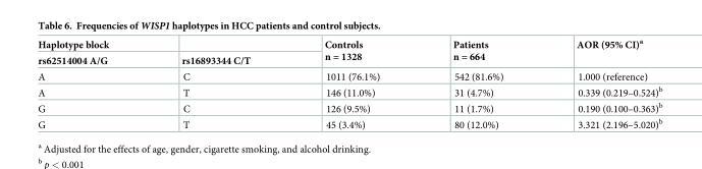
<table><thead><tr><td rowspan="2">Haplotype block rs62514004 A/G</td><td rowspan="2">rs16893344 C/T</td><td rowspan="2">Controls n = 1328</td><td rowspan="2">Patients n = 664</td><td rowspan="2">AOR (95% CI)<sup>a</sup></td></tr><tr></tr></thead><tbody><tr><td>A</td><td>C</td><td>1011 (76.1%)</td><td>542 (81.6%)</td><td>1.000 (reference)</td></tr><tr><td>A</td><td>T</td><td>146 (11.0%)</td><td>31 (4.7%)</td><td>0.339 (0.219–0.524)<sup>b</sup></td></tr><tr><td>G</td><td>C</td><td>126 (9.5%)</td><td>11 (1.7%)</td><td>0.190 (0.100–0.363)<sup>b</sup></td></tr><tr><td>G</td><td>T</td><td>45 (3.4%)</td><td>80 (12.0%)</td><td>3.321 (2.196–5.020)<sup>b</sup></td></tr></tbody></table>